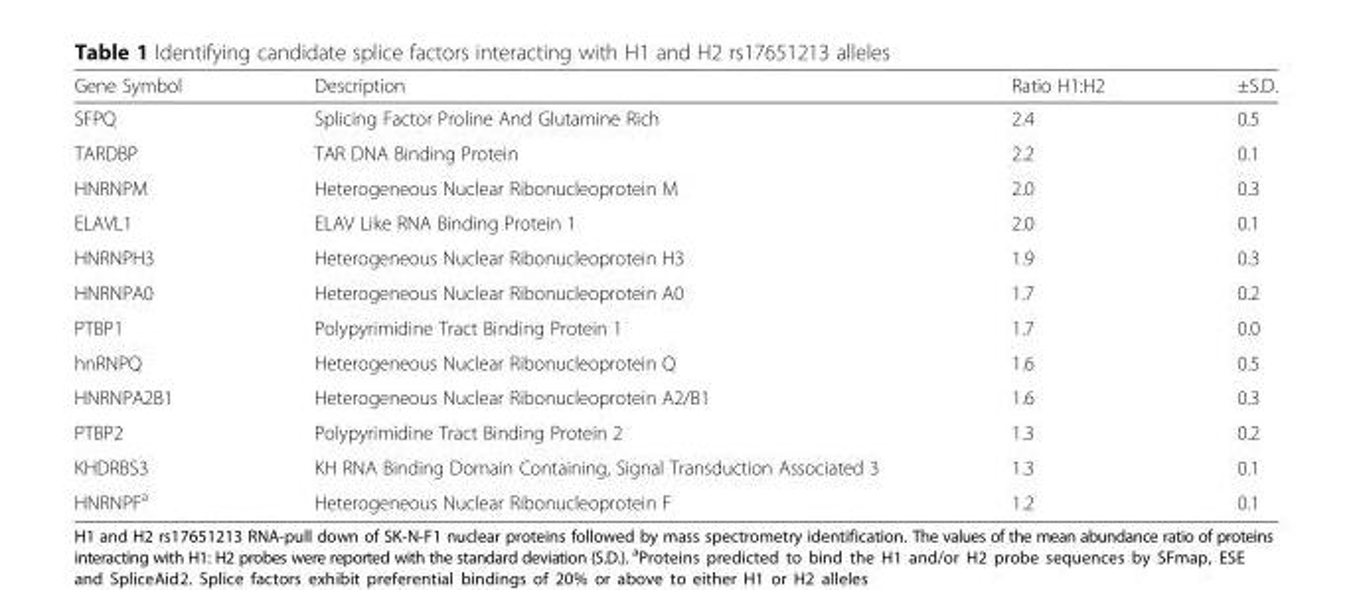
<table><thead><tr><td>Gene Symbol</td><td>Description</td><td>Ratio H1:H2</td><td>±S.D.</td></tr></thead><tbody><tr><td>SFPQ</td><td>Splicing Factor Proline And Glutamine Rich</td><td>2.4</td><td>0.5</td></tr><tr><td>TARDBP</td><td>TAR DNA Binding Protein</td><td>2.2</td><td>0.1</td></tr><tr><td>HNRNPM</td><td>Heterogeneous Nuclear Ribonucleoprotein M</td><td>2.0</td><td>0.3</td></tr><tr><td>ELAVL1</td><td>ELAV Like RNA Binding Protein 1</td><td>2.0</td><td>0.1</td></tr><tr><td>HNRNPH3</td><td>Heterogeneous Nuclear Ribonucleoprotein H3</td><td>1.9</td><td>0.3</td></tr><tr><td>HNRNPA0</td><td>Heterogeneous Nuclear Ribonucleoprotein A0</td><td>1.7</td><td>0.2</td></tr><tr><td>PTBP1</td><td>Polypyrimidine Tract Binding Protein 1</td><td>1.7</td><td>0.0</td></tr><tr><td>hnRNPQ</td><td>Heterogeneous Nuclear Ribonucleoprotein Q</td><td>1.6</td><td>0.5</td></tr><tr><td>HNRNPA2B1</td><td>Heterogeneous Nuclear Ribonucleoprotein A2/B1</td><td>1.6</td><td>0.3</td></tr><tr><td>PTBP2</td><td>Polypyrimidine Tract Binding Protein 2</td><td>1.3</td><td>0.2</td></tr><tr><td>KHDRBS3</td><td>KH RNA Binding Domain Containing, Signal Transduction Associated 3</td><td>1.3</td><td>0.1</td></tr><tr><td>HNRNPF<sup>a</sup></td><td>Heterogeneous Nuclear Ribonucleoprotein F</td><td>1.2</td><td>0.1</td></tr></tbody></table>